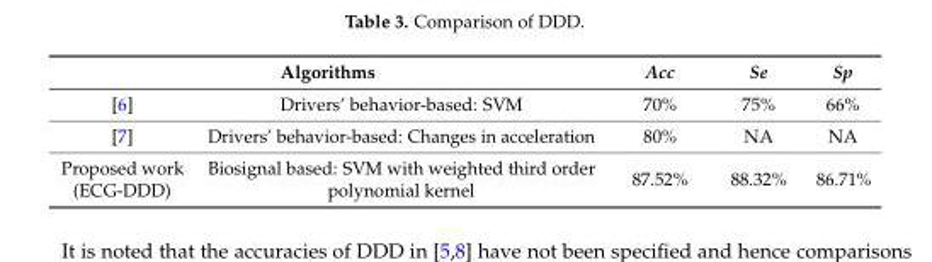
<table><thead><tr><td colspan="2">Algorithms</td><td rowspan="2">Acc 70%</td><td rowspan="2">Se 75%</td><td rowspan="2">Sp 66%</td></tr><tr><td>[6]</td><td>Drivers’ behavior-based: SVM</td></tr></thead><tbody><tr><td>[7]</td><td>Drivers’ behavior-based: Changes in acceleration</td><td>80%</td><td>NA</td><td>NA</td></tr><tr><td>Proposed work (ECG-DDD)</td><td>Biosignal based: SVM with weighted third order polynomial kernel</td><td>87.52%</td><td>88.32%</td><td>86.71%</td></tr></tbody></table>